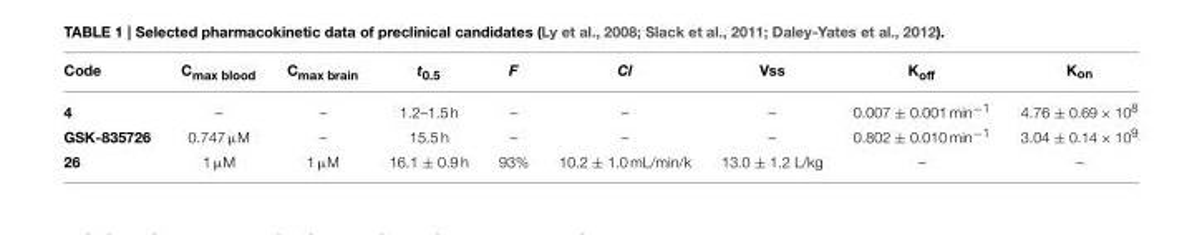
<table><thead><tr><td>Code</td><td>C<sub>max blood</sub></td><td>C<sub>max brain</sub></td><td>t<sub>0.5</sub></td><td>F</td><td>Cl</td><td>Vss</td><td>K<sub>off</sub></td><td>K<sub>on</sub></td></tr></thead><tbody><tr><td>4</td><td>–</td><td>–</td><td>1.2–1.5 h</td><td>–</td><td>–</td><td>–</td><td>0.007 ± 0.001 min<sup>−1</sup></td><td>4.76 ± 0.69 × 10<sup>8</sup></td></tr><tr><td>GSK-835726</td><td>0.747 µM</td><td>–</td><td>15.5 h</td><td>–</td><td>–</td><td>–</td><td>0.802 ± 0.010 min<sup>−1</sup></td><td>3.04 ± 0.14 × 10<sup>9</sup></td></tr><tr><td>26</td><td>1 µM</td><td>1 µM</td><td>16.1 ± 0.9 h</td><td>93%</td><td>10.2 ± 1.0 mL/min/k</td><td>13.0 ± 1.2 L/kg</td><td>–</td><td>–</td></tr></tbody></table>